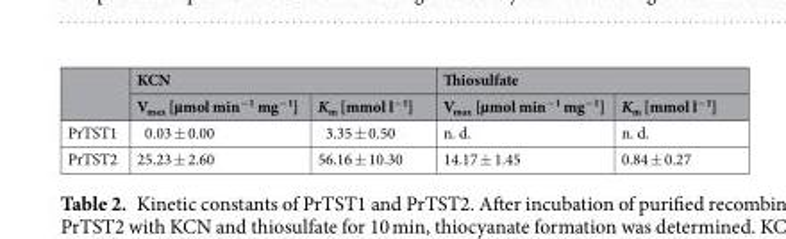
<table><thead><tr><td rowspan="2"></td><td colspan="2">KCN</td><td colspan="2">Thiosulfate</td></tr><tr><td>V<sub>max</sub> [µmol min<sup>−1</sup> mg<sup>−1</sup>]</td><td>K<sub>m</sub> [mmol l<sup>−1</sup>]</td><td>V<sub>max</sub> [µmol min<sup>−1</sup> mg<sup>−1</sup>]</td><td>K<sub>m</sub> [mmol l<sup>−1</sup>]</td></tr></thead><tbody><tr><td>PrTST1</td><td>0.03 ± 0.00</td><td>3.35 ± 0.50</td><td>n. d.</td><td>n. d.</td></tr><tr><td>PrTST2</td><td>25.23 ± 2.60</td><td>56.16 ± 10.30</td><td>14.17 ± 1.45</td><td>0.84 ± 0.27</td></tr></tbody></table>